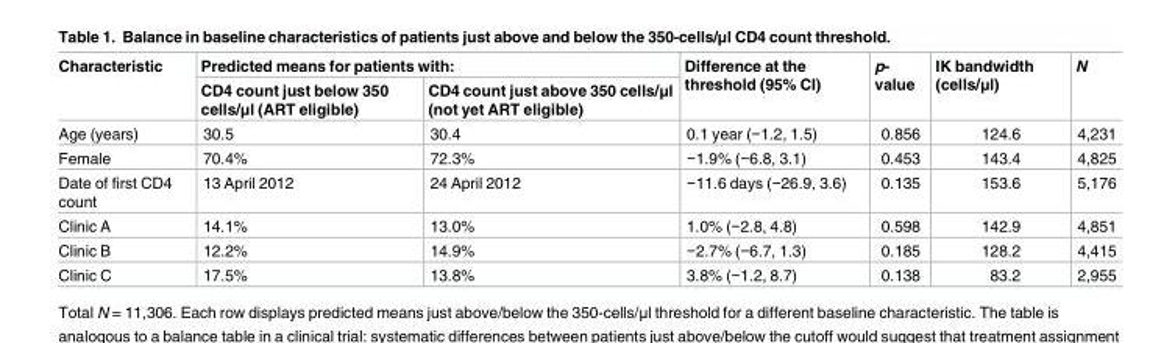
<table><thead><tr><td rowspan="2">Characteristic</td><td colspan="2">Predicted means for patients with:</td><td rowspan="2">Difference at the threshold (95% CI)</td><td rowspan="2">p- value</td><td rowspan="2">IK bandwidth (cells/μl)</td><td rowspan="2">N</td></tr><tr><td>CD4 count just below 350 cells/μl (ART eligible)</td><td>CD4 count just above 350 cells/μl (not yet ART eligible)</td></tr></thead><tbody><tr><td>Age (years)</td><td>30.5</td><td>30.4</td><td>0.1 year (−1.2, 1.5)</td><td>0.856</td><td>124.6</td><td>4,231</td></tr><tr><td>Female</td><td>70.4%</td><td>72.3%</td><td>−1.9% (−6.8, 3.1)</td><td>0.453</td><td>143.4</td><td>4,825</td></tr><tr><td>Date of first CD4 count</td><td>13 April 2012</td><td>24 April 2012</td><td>−11.6 days (−26.9, 3.6)</td><td>0.135</td><td>153.6</td><td>5,176</td></tr><tr><td>Clinic A</td><td>14.1%</td><td>13.0%</td><td>1.0% (−2.8, 4.8)</td><td>0.598</td><td>142.9</td><td>4,851</td></tr><tr><td>Clinic B</td><td>12.2%</td><td>14.9%</td><td>−2.7% (−6.7, 1.3)</td><td>0.185</td><td>128.2</td><td>4,415</td></tr><tr><td>Clinic C</td><td>17.5%</td><td>13.8%</td><td>3.8% (−1.2, 8.7)</td><td>0.138</td><td>83.2</td><td>2,955</td></tr></tbody></table>